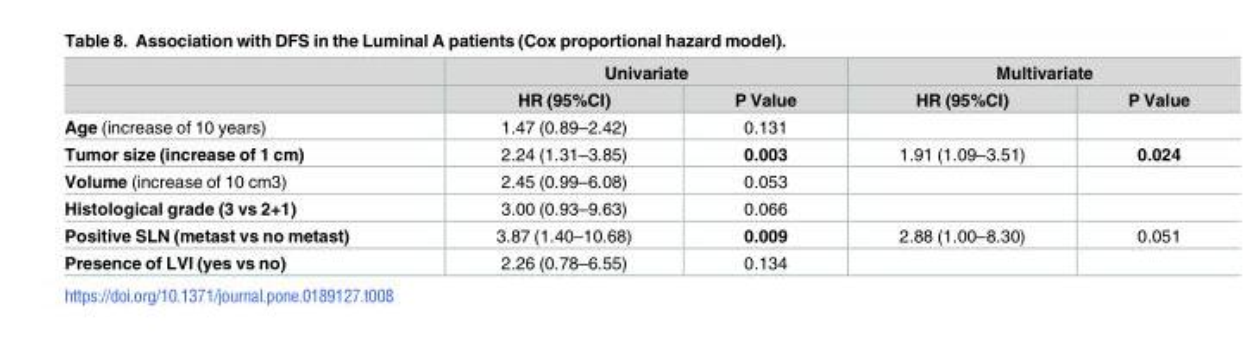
<table><thead><tr><td rowspan="2"></td><td colspan="2">Univariate</td><td colspan="2">Multivariate</td></tr><tr><td>HR (95%CI)</td><td>P Value</td><td>HR (95%CI)</td><td>P Value</td></tr></thead><tbody><tr><td>Age (increase of 10 years)</td><td>1.47 (0.89–2.42)</td><td>0.131</td><td></td><td></td></tr><tr><td>Tumor size (increase of 1 cm)</td><td>2.24 (1.31–3.85)</td><td>0.003</td><td>1.91 (1.09–3.51)</td><td>0.024</td></tr><tr><td>Volume (increase of 10 cm3)</td><td>2.45 (0.99–6.08)</td><td>0.053</td><td></td><td></td></tr><tr><td>Histological grade (3 vs 2+1)</td><td>3.00 (0.93–9.63)</td><td>0.066</td><td></td><td></td></tr><tr><td>Positive SLN (metast vs no metast)</td><td>3.87 (1.40–10.68)</td><td>0.009</td><td>2.88 (1.00–8.30)</td><td>0.051</td></tr><tr><td>Presence of LVI (yes vs no)</td><td>2.26 (0.78–6.55)</td><td>0.134</td><td></td><td></td></tr></tbody></table>